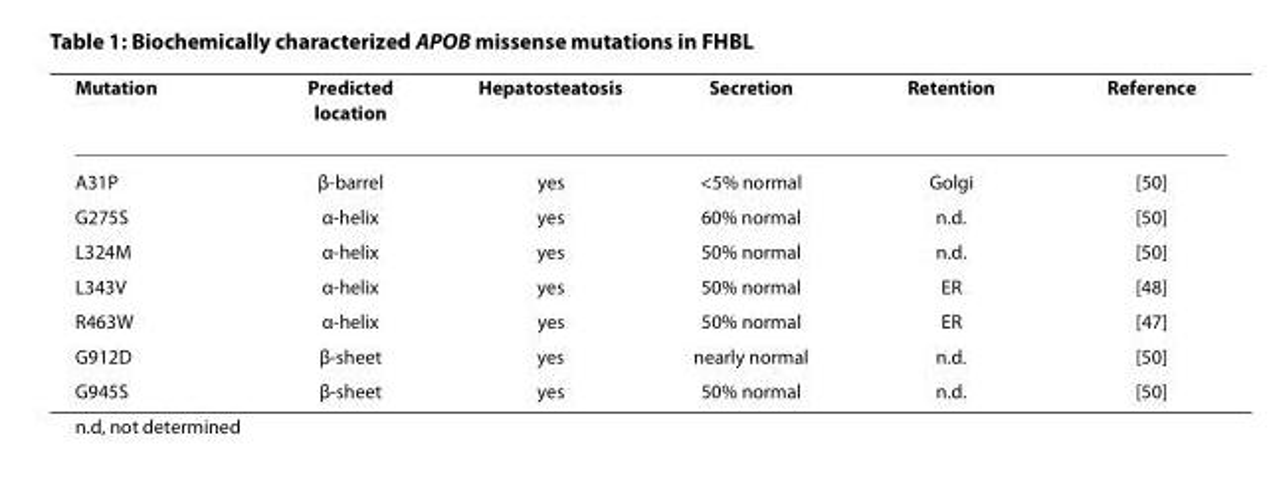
<table><thead><tr><td>Mutation</td><td>Predicted location</td><td>Hepatosteatosis</td><td>Secretion</td><td>Retention</td><td>Reference</td></tr></thead><tbody><tr><td>A31P</td><td>β-barrel</td><td>yes</td><td>&lt;5% normal</td><td>Golgi</td><td>[50]</td></tr><tr><td>G275S</td><td>α-helix</td><td>yes</td><td>60% normal</td><td>n.d.</td><td>[50]</td></tr><tr><td>L324M</td><td>α-helix</td><td>yes</td><td>50% normal</td><td>n.d.</td><td>[50]</td></tr><tr><td>L343V</td><td>α-helix</td><td>yes</td><td>50% normal</td><td>ER</td><td>[48]</td></tr><tr><td>R463W</td><td>α-helix</td><td>yes</td><td>50% normal</td><td>ER</td><td>[47]</td></tr><tr><td>G912D</td><td>β-sheet</td><td>yes</td><td>nearly normal</td><td>n.d.</td><td>[50]</td></tr><tr><td>G945S</td><td>β-sheet</td><td>yes</td><td>50% normal</td><td>n.d.</td><td>[50]</td></tr></tbody></table>